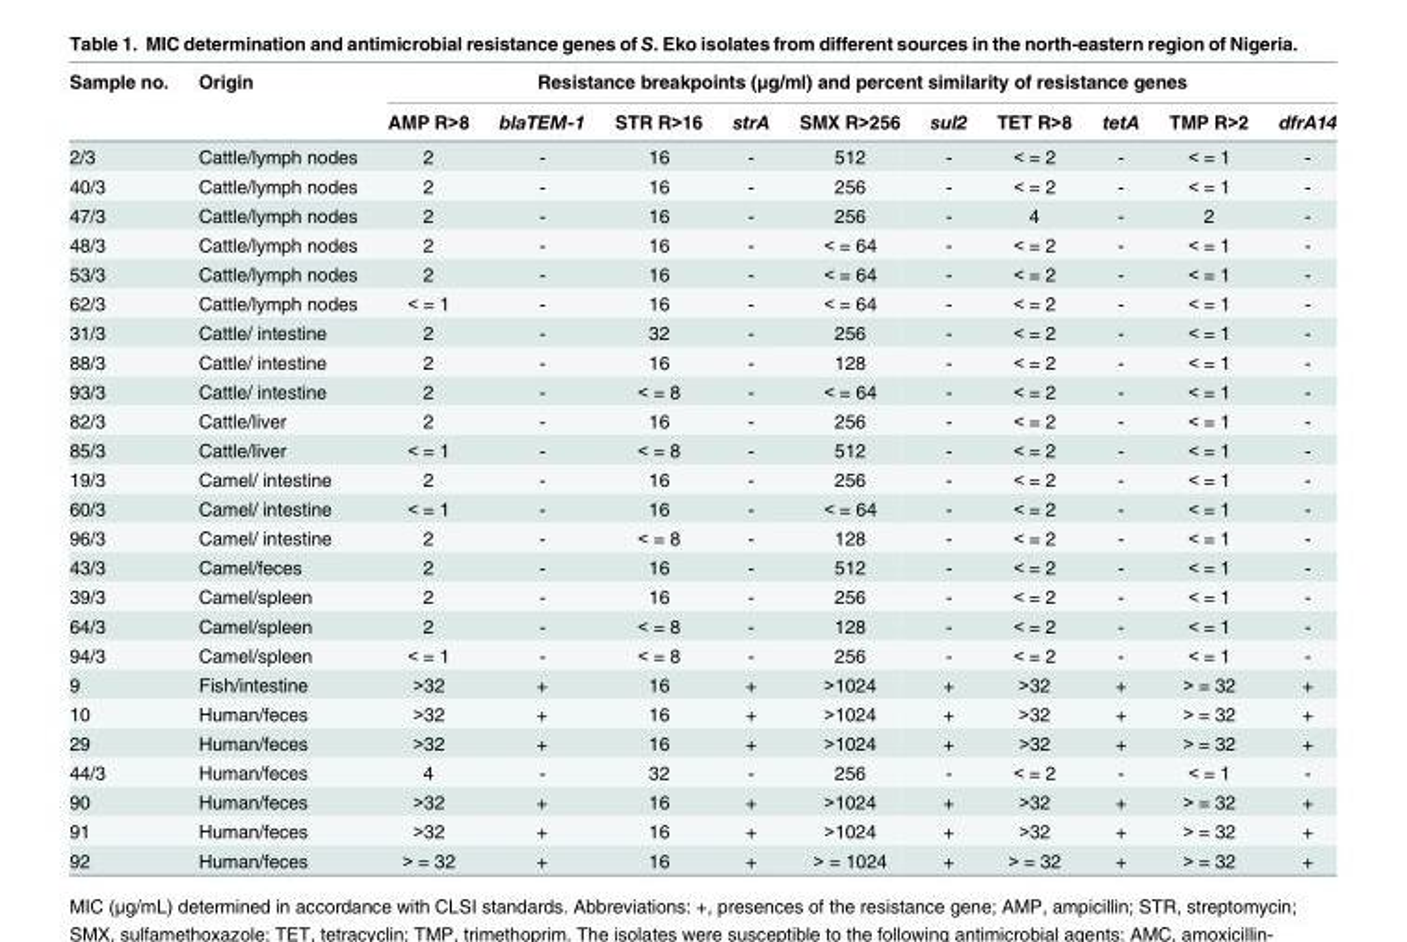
<table><thead><tr><td rowspan="2">Sample no.</td><td rowspan="2">Origin</td><td colspan="10">Resistance breakpoints (μg/ml) and percent similarity of resistance genes</td></tr><tr><td>AMP R&gt;8</td><td>blaTEM-1</td><td>STR R&gt;16</td><td>strA</td><td>SMX R&gt;256</td><td>sul2</td><td>TET R&gt;8</td><td>tetA</td><td>TMP R&gt;2</td><td>dfrA14</td></tr></thead><tbody><tr><td>2/3</td><td>Cattle/lymph nodes</td><td>2</td><td>-</td><td>16</td><td>-</td><td>512</td><td>-</td><td>&lt; = 2</td><td>-</td><td>&lt; = 1</td><td>-</td></tr><tr><td>40/3</td><td>Cattle/lymph nodes</td><td>2</td><td>-</td><td>16</td><td>-</td><td>256</td><td>-</td><td>&lt; = 2</td><td>-</td><td>&lt; = 1</td><td>-</td></tr><tr><td>47/3</td><td>Cattle/lymph nodes</td><td>2</td><td>-</td><td>16</td><td>-</td><td>256</td><td>-</td><td>4</td><td>-</td><td>2</td><td>-</td></tr><tr><td>48/3</td><td>Cattle/lymph nodes</td><td>2</td><td>-</td><td>16</td><td>-</td><td>&lt; = 64</td><td>-</td><td>&lt; = 2</td><td>-</td><td>&lt; = 1</td><td>-</td></tr><tr><td>53/3</td><td>Cattle/lymph nodes</td><td>2</td><td>-</td><td>16</td><td>-</td><td>&lt; = 64</td><td>-</td><td>&lt; = 2</td><td>-</td><td>&lt; = 1</td><td>-</td></tr><tr><td>62/3</td><td>Cattle/lymph nodes</td><td>&lt; = 1</td><td>-</td><td>16</td><td>-</td><td>&lt; = 64</td><td>-</td><td>&lt; = 2</td><td>-</td><td>&lt; = 1</td><td>-</td></tr><tr><td>31/3</td><td>Cattle/ intestine</td><td>2</td><td>-</td><td>32</td><td>-</td><td>256</td><td>-</td><td>&lt; = 2</td><td>-</td><td>&lt; = 1</td><td>-</td></tr><tr><td>88/3</td><td>Cattle/ intestine</td><td>2</td><td>-</td><td>16</td><td>-</td><td>128</td><td>-</td><td>&lt; = 2</td><td>-</td><td>&lt; = 1</td><td>-</td></tr><tr><td>93/3</td><td>Cattle/ intestine</td><td>2</td><td>-</td><td>&lt; = 8</td><td>-</td><td>&lt; = 64</td><td>-</td><td>&lt; = 2</td><td>-</td><td>&lt; = 1</td><td>-</td></tr><tr><td>82/3</td><td>Cattle/liver</td><td>2</td><td>-</td><td>16</td><td>-</td><td>256</td><td>-</td><td>&lt; = 2</td><td>-</td><td>&lt; = 1</td><td>-</td></tr><tr><td>85/3</td><td>Cattle/liver</td><td>&lt; = 1</td><td>-</td><td>&lt; = 8</td><td>-</td><td>512</td><td>-</td><td>&lt; = 2</td><td>-</td><td>&lt; = 1</td><td>-</td></tr><tr><td>19/3</td><td>Camel/ intestine</td><td>2</td><td>-</td><td>16</td><td>-</td><td>256</td><td>-</td><td>&lt; = 2</td><td>-</td><td>&lt; = 1</td><td>-</td></tr><tr><td>60/3</td><td>Camel/ intestine</td><td>&lt; = 1</td><td>-</td><td>16</td><td>-</td><td>&lt; = 64</td><td>-</td><td>&lt; = 2</td><td>-</td><td>&lt; = 1</td><td>-</td></tr><tr><td>96/3</td><td>Camel/ intestine</td><td>2</td><td>-</td><td>&lt; = 8</td><td>-</td><td>128</td><td>-</td><td>&lt; = 2</td><td>-</td><td>&lt; = 1</td><td>-</td></tr><tr><td>43/3</td><td>Camel/feces</td><td>2</td><td>-</td><td>16</td><td>-</td><td>512</td><td>-</td><td>&lt; = 2</td><td>-</td><td>&lt; = 1</td><td>-</td></tr><tr><td>39/3</td><td>Camel/spleen</td><td>2</td><td>-</td><td>16</td><td>-</td><td>256</td><td>-</td><td>&lt; = 2</td><td>-</td><td>&lt; = 1</td><td>-</td></tr><tr><td>64/3</td><td>Camel/spleen</td><td>2</td><td>-</td><td>&lt; = 8</td><td>-</td><td>128</td><td>-</td><td>&lt; = 2</td><td>-</td><td>&lt; = 1</td><td>-</td></tr><tr><td>94/3</td><td>Camel/spleen</td><td>&lt; = 1</td><td>-</td><td>&lt; = 8</td><td>-</td><td>256</td><td>-</td><td>&lt; = 2</td><td>-</td><td>&lt; = 1</td><td>-</td></tr><tr><td>9</td><td>Fish/intestine</td><td>&gt;32</td><td>+</td><td>16</td><td>+</td><td>&gt;1024</td><td>+</td><td>&gt;32</td><td>+</td><td>&gt; = 32</td><td>+</td></tr><tr><td>10</td><td>Human/feces</td><td>&gt;32</td><td>+</td><td>16</td><td>+</td><td>&gt;1024</td><td>+</td><td>&gt;32</td><td>+</td><td>&gt; = 32</td><td>+</td></tr><tr><td>29</td><td>Human/feces</td><td>&gt;32</td><td>+</td><td>16</td><td>+</td><td>&gt;1024</td><td>+</td><td>&gt;32</td><td>+</td><td>&gt; = 32</td><td>+</td></tr><tr><td>44/3</td><td>Human/feces</td><td>4</td><td>-</td><td>32</td><td>-</td><td>256</td><td>-</td><td>&lt; = 2</td><td>-</td><td>&lt; = 1</td><td>-</td></tr><tr><td>90</td><td>Human/feces</td><td>&gt;32</td><td>+</td><td>16</td><td>+</td><td>&gt;1024</td><td>+</td><td>&gt;32</td><td>+</td><td>&gt; = 32</td><td>+</td></tr><tr><td>91</td><td>Human/feces</td><td>&gt;32</td><td>+</td><td>16</td><td>+</td><td>&gt;1024</td><td>+</td><td>&gt;32</td><td>+</td><td>&gt; = 32</td><td>+</td></tr><tr><td>92</td><td>Human/feces</td><td>&gt; = 32</td><td>+</td><td>16</td><td>+</td><td>&gt; = 1024</td><td>+</td><td>&gt; = 32</td><td>+</td><td>&gt; = 32</td><td>+</td></tr></tbody></table>